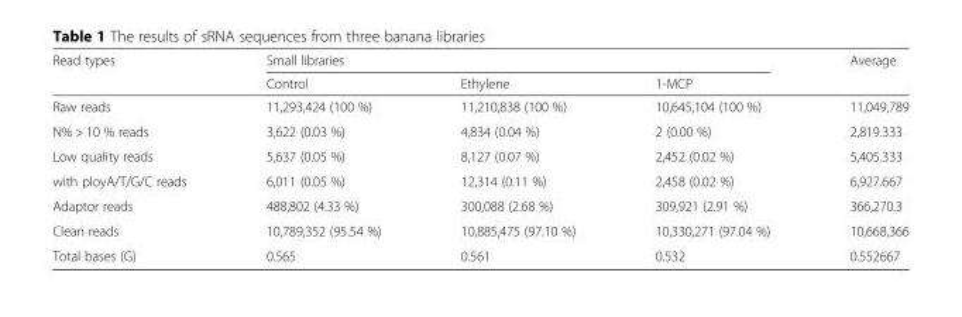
<table><thead><tr><td rowspan="2">Read types</td><td colspan="3">Small libraries</td><td rowspan="2">Average</td></tr><tr><td>Control</td><td>Ethylene</td><td>1-MCP</td></tr></thead><tbody><tr><td>Raw reads</td><td>11,293,424 (100 %)</td><td>11,210,838 (100 %)</td><td>10,645,104 (100 %)</td><td>11,049,789</td></tr><tr><td>N% &gt; 10 % reads</td><td>3,622 (0.03 %)</td><td>4,834 (0.04 %)</td><td>2 (0.00 %)</td><td>2,819.333</td></tr><tr><td>Low quality reads</td><td>5,637 (0.05 %)</td><td>8,127 (0.07 %)</td><td>2,452 (0.02 %)</td><td>5,405.333</td></tr><tr><td>with ployA/T/G/C reads</td><td>6,011 (0.05 %)</td><td>12,314 (0.11 %)</td><td>2,458 (0.02 %)</td><td>6,927.667</td></tr><tr><td>Adaptor reads</td><td>488,802 (4.33 %)</td><td>300,088 (2.68 %)</td><td>309,921 (2.91 %)</td><td>366,270.3</td></tr><tr><td>Clean reads</td><td>10,789,352 (95.54 %)</td><td>10,885,475 (97.10 %)</td><td>10,330,271 (97.04 %)</td><td>10,668,366</td></tr><tr><td>Total bases (G)</td><td>0.565</td><td>0.561</td><td>0.532</td><td>0.552667</td></tr></tbody></table>